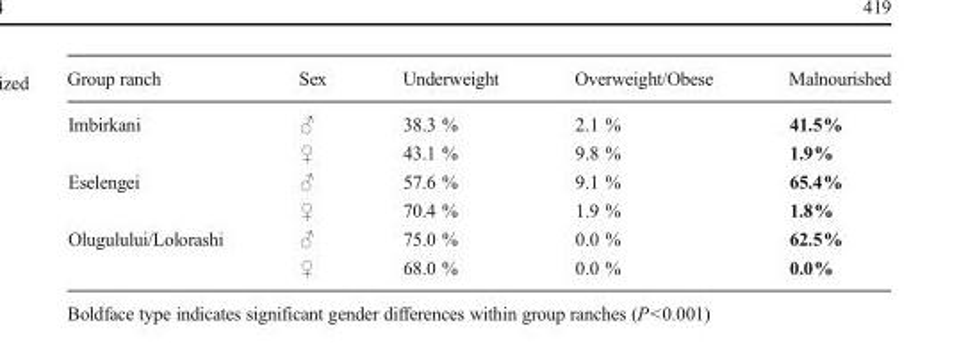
<table><thead><tr><td>Group ranch</td><td>Sex</td><td>Underweight</td><td>Overweight/Obese</td><td>Malnourished</td></tr></thead><tbody><tr><td rowspan="2">Imbirkani</td><td>♂</td><td>38.3 %</td><td>2.1 %</td><td>41.5%</td></tr><tr><td>♀</td><td>43.1 %</td><td>9.8 %</td><td>1.9%</td></tr><tr><td rowspan="2">Eselengei</td><td>♂</td><td>57.6 %</td><td>9.1 %</td><td>65.4%</td></tr><tr><td>♀</td><td>70.4 %</td><td>1.9 %</td><td>1.8%</td></tr><tr><td rowspan="2">Olugulului/Lolorashi</td><td>♂</td><td>75.0 %</td><td>0.0 %</td><td>62.5%</td></tr><tr><td>♀</td><td>68.0 %</td><td>0.0 %</td><td>0.0%</td></tr></tbody></table>